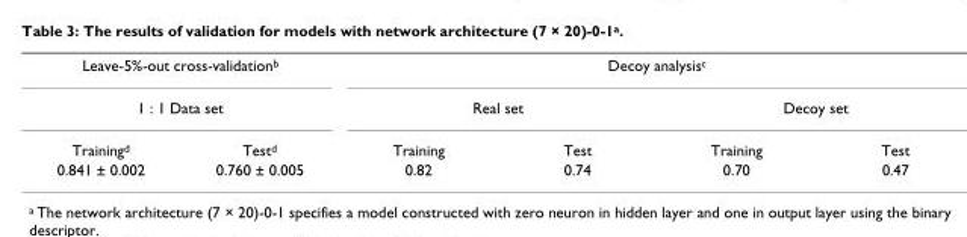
<table><tbody><tr><td colspan="2">Leave-5%-out cross-validation<sup>b</sup></td><td colspan="4">Decoy analysis<sup>c</sup></td></tr><tr><td colspan="2">1 : 1 Data set</td><td colspan="2">Real set</td><td colspan="2">Decoy set</td></tr><tr><td>Training<sup>d</sup></td><td>Test<sup>d</sup></td><td>Training</td><td>Test</td><td>Training</td><td>Test</td></tr><tr><td>0.841 ± 0.002</td><td>0.760 ± 0.005</td><td>0.82</td><td>0.74</td><td>0.70</td><td>0.47</td></tr></tbody></table>